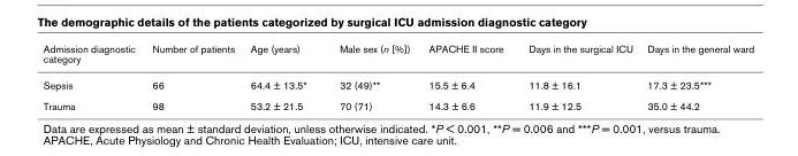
<table><thead><tr><td>Admission diagnostic category</td><td>Number of patients</td><td>Age (years)</td><td>Male sex (n [%])</td><td>APACHE II score</td><td>Days in the surgical ICU</td><td>Days in the general ward</td></tr></thead><tbody><tr><td>Sepsis</td><td>66</td><td>64.4 ± 13.5*</td><td>32 (49)**</td><td>15.5 ± 6.4</td><td>11.8 ± 16.1</td><td>17.3 ± 23.5***</td></tr><tr><td>Trauma</td><td>98</td><td>53.2 ± 21.5</td><td>70 (71)</td><td>14.3 ± 6.6</td><td>11.9 ± 12.5</td><td>35.0 ± 44.2</td></tr></tbody></table>